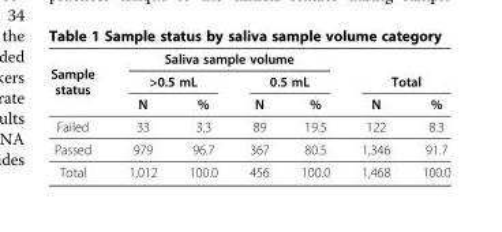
<table><thead><tr><td rowspan="3">Sample status</td><td colspan="4">Saliva sample volume</td><td></td><td></td></tr><tr><td colspan="2">&gt;0.5 mL</td><td colspan="2">0.5 mL</td><td colspan="2">Total</td></tr><tr><td>N</td><td>%</td><td>N</td><td>%</td><td>N</td><td>%</td></tr></thead><tbody><tr><td>Failed</td><td>33</td><td>3.3</td><td>89</td><td>19.5</td><td>122</td><td>8.3</td></tr><tr><td>Passed</td><td>979</td><td>96.7</td><td>367</td><td>80.5</td><td>1,346</td><td>91.7</td></tr><tr><td>Total</td><td>1,012</td><td>100.0</td><td>456</td><td>100.0</td><td>1,468</td><td>100.0</td></tr></tbody></table>